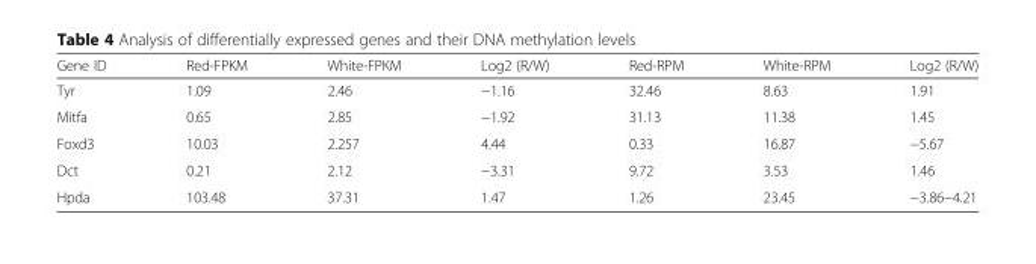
<table><thead><tr><td>Gene ID</td><td>Red-FPKM</td><td>White-FPKM</td><td>Log2 (R/W)</td><td>Red-RPM</td><td>White-RPM</td><td>Log2 (R/W)</td></tr></thead><tbody><tr><td>Tyr</td><td>1.09</td><td>2.46</td><td>−1.16</td><td>32.46</td><td>8.63</td><td>1.91</td></tr><tr><td>Mitfa</td><td>0.65</td><td>2.85</td><td>−1.92</td><td>31.13</td><td>11.38</td><td>1.45</td></tr><tr><td>Foxd3</td><td>10.03</td><td>2.257</td><td>4.44</td><td>0.33</td><td>16.87</td><td>−5.67</td></tr><tr><td>Dct</td><td>0.21</td><td>2.12</td><td>−3.31</td><td>9.72</td><td>3.53</td><td>1.46</td></tr><tr><td>Hpda</td><td>103.48</td><td>37.31</td><td>1.47</td><td>1.26</td><td>23.45</td><td>−3.86−4.21</td></tr></tbody></table>